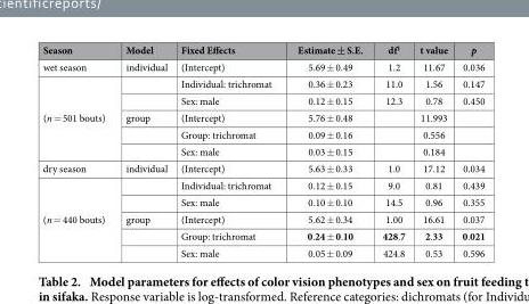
<table><thead><tr><td>Season</td><td>Model</td><td>Fixed Effects</td><td>Estimate ± S.E.</td><td>df<sup>1</sup></td><td>t value</td><td>p</td></tr></thead><tbody><tr><td>wet season</td><td>individual</td><td>(Intercept)</td><td>5.69 ± 0.49</td><td>1.2</td><td>11.67</td><td>0.036</td></tr><tr><td rowspan="5">(n = 501 bouts)</td><td></td><td>Individual: trichromat</td><td>0.36 ± 0.23</td><td>11.0</td><td>1.56</td><td>0.147</td></tr><tr><td></td><td>Sex: male</td><td>0.12 ± 0.15</td><td>12.3</td><td>0.78</td><td>0.450</td></tr><tr><td>group</td><td>(Intercept)</td><td>5.76 ± 0.48</td><td></td><td>11.993</td><td></td></tr><tr><td></td><td>Group: trichromat</td><td>0.09 ± 0.16</td><td></td><td>0.556</td><td></td></tr><tr><td></td><td>Sex: male</td><td>0.03 ± 0.15</td><td></td><td>0.184</td><td></td></tr><tr><td>dry season</td><td>individual</td><td>(Intercept)</td><td>5.63 ± 0.33</td><td>1.0</td><td>17.12</td><td>0.034</td></tr><tr><td rowspan="5">(n = 440 bouts)</td><td></td><td>Individual: trichromat</td><td>0.12 ± 0.15</td><td>9.0</td><td>0.81</td><td>0.439</td></tr><tr><td></td><td>Sex: male</td><td>0.10 ± 0.10</td><td>14.5</td><td>0.96</td><td>0.355</td></tr><tr><td>group</td><td>(Intercept)</td><td>5.62 ± 0.34</td><td>1.00</td><td>16.61</td><td>0.037</td></tr><tr><td></td><td>Group: trichromat</td><td>0.24 ± 0.10</td><td>428.7</td><td>2.33</td><td>0.021</td></tr><tr><td></td><td>Sex: male</td><td>0.05 ± 0.09</td><td>424.8</td><td>0.53</td><td>0.596</td></tr></tbody></table>